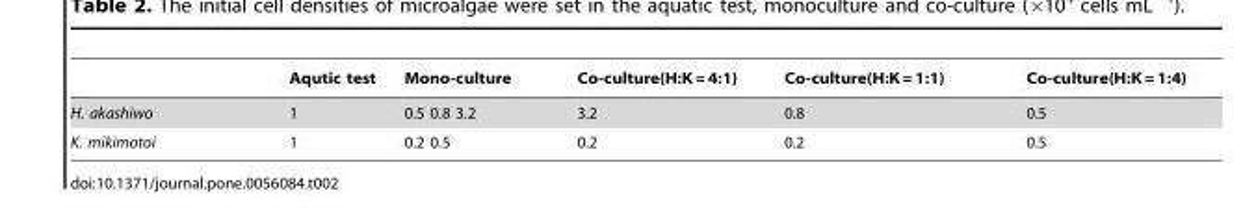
<table><thead><tr><td></td><td>Aqutic test</td><td>Mono-culture</td><td>Co-culture(H:K = 4:1)</td><td>Co-culture(H:K = 1:1)</td><td>Co-culture(H:K = 1:4)</td></tr></thead><tbody><tr><td>H. akashiwo</td><td>1</td><td>0.5 0.8 3.2</td><td>3.2</td><td>0.8</td><td>0.5</td></tr><tr><td>K. mikimotoi</td><td>1</td><td>0.2 0.5</td><td>0.2</td><td>0.2</td><td>0.5</td></tr></tbody></table>